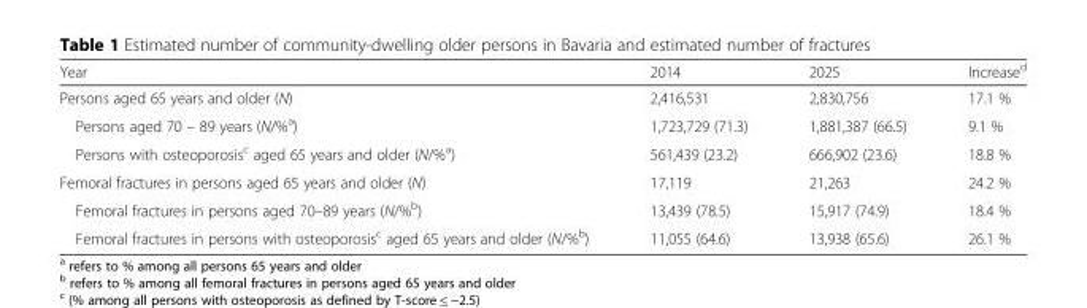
<table><thead><tr><td>Year</td><td>2014</td><td>2025</td><td>Increase<sup>d</sup></td></tr></thead><tbody><tr><td>Persons aged 65 years and older (N)</td><td>2,416,531</td><td>2,830,756</td><td>17.1 %</td></tr><tr><td>Persons aged 70 – 89 years (N/%<sup>a</sup>)</td><td>1,723,729 (71.3)</td><td>1,881,387 (66.5)</td><td>9.1 %</td></tr><tr><td>Persons with osteoporosis<sup>c</sup> aged 65 years and older (N/%<sup>a</sup>)</td><td>561,439 (23.2)</td><td>666,902 (23.6)</td><td>18.8 %</td></tr><tr><td>Femoral fractures in persons aged 65 years and older (N)</td><td>17,119</td><td>21,263</td><td>24.2 %</td></tr><tr><td>Femoral fractures in persons aged 70–89 years (N/%<sup>b</sup>)</td><td>13,439 (78.5)</td><td>15,917 (74.9)</td><td>18.4 %</td></tr><tr><td>Femoral fractures in persons with osteoporosis<sup>c</sup> aged 65 years and older (N/%<sup>b</sup>)</td><td>11,055 (64.6)</td><td>13,938 (65.6)</td><td>26.1 %</td></tr></tbody></table>